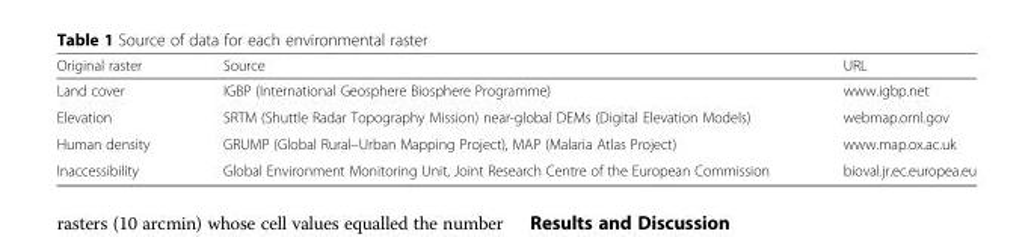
<table><thead><tr><td>Original raster</td><td>Source</td><td>URL</td></tr></thead><tbody><tr><td>Land cover</td><td>IGBP (International Geosphere Biosphere Programme)</td><td>www.igbp.net</td></tr><tr><td>Elevation</td><td>SRTM (Shuttle Radar Topography Mission) near-global DEMs (Digital Elevation Models)</td><td>webmap.ornl.gov</td></tr><tr><td>Human density</td><td>GRUMP (Global Rural–Urban Mapping Project), MAP (Malaria Atlas Project)</td><td>www.map.ox.ac.uk</td></tr><tr><td>Inaccessibility</td><td>Global Environment Monitoring Unit, Joint Research Centre of the European Commission</td><td>bioval.jr.ec.europea.eu</td></tr></tbody></table>